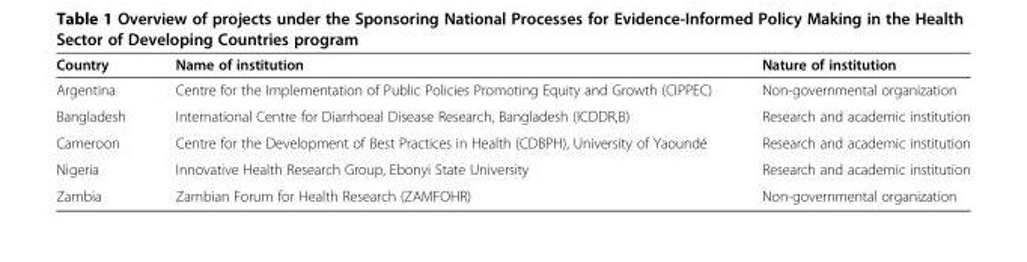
<table><thead><tr><td>Country</td><td>Name of institution</td><td>Nature of institution</td></tr></thead><tbody><tr><td>Argentina</td><td>Centre for the Implementation of Public Policies Promoting Equity and Growth (CIPPEC)</td><td>Non-governmental organization</td></tr><tr><td>Bangladesh</td><td>International Centre for Diarrhoeal Disease Research, Bangladesh (ICDDR,B)</td><td>Research and academic institution</td></tr><tr><td>Cameroon</td><td>Centre for the Development of Best Practices in Health (CDBPH), University of Yaoundé</td><td>Research and academic institution</td></tr><tr><td>Nigeria</td><td>Innovative Health Research Group, Ebonyi State University</td><td>Research and academic institution</td></tr><tr><td>Zambia</td><td>Zambian Forum for Health Research (ZAMFOHR)</td><td>Non-governmental organization</td></tr></tbody></table>